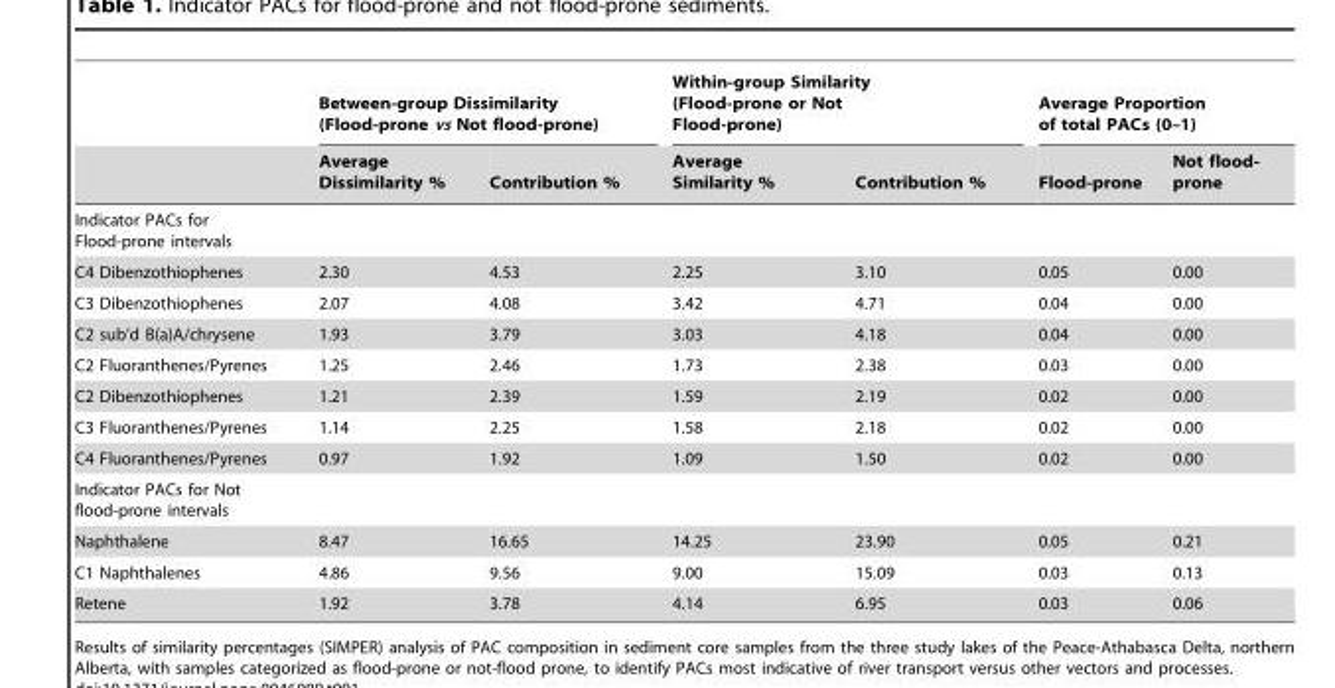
<table><thead><tr><td rowspan="2"></td><td colspan="2">Between-group Dissimilarity (Flood-prone vs Not flood-prone)</td><td colspan="2">Within-group Similarity (Flood-prone or Not Flood-prone)</td><td colspan="2">Average Proportion of total PACs (0–1)</td></tr><tr><td>Average Dissimilarity %</td><td>Contribution %</td><td>Average Similarity %</td><td>Contribution %</td><td>Flood-prone</td><td>Not flood- prone</td></tr></thead><tbody><tr><td colspan="7">Indicator PACs for Flood-prone intervals</td></tr><tr><td>C4 Dibenzothiophenes</td><td>2.30</td><td>4.53</td><td>2.25</td><td>3.10</td><td>0.05</td><td>0.00</td></tr><tr><td>C3 Dibenzothiophenes</td><td>2.07</td><td>4.08</td><td>3.42</td><td>4.71</td><td>0.04</td><td>0.00</td></tr><tr><td>C2 sub’d B(a)A/chrysene</td><td>1.93</td><td>3.79</td><td>3.03</td><td>4.18</td><td>0.04</td><td>0.00</td></tr><tr><td>C2 Fluoranthenes/Pyrenes</td><td>1.25</td><td>2.46</td><td>1.73</td><td>2.38</td><td>0.03</td><td>0.00</td></tr><tr><td>C2 Dibenzothiophenes</td><td>1.21</td><td>2.39</td><td>1.59</td><td>2.19</td><td>0.02</td><td>0.00</td></tr><tr><td>C3 Fluoranthenes/Pyrenes</td><td>1.14</td><td>2.25</td><td>1.58</td><td>2.18</td><td>0.02</td><td>0.00</td></tr><tr><td>C4 Fluoranthenes/Pyrenes</td><td>0.97</td><td>1.92</td><td>1.09</td><td>1.50</td><td>0.02</td><td>0.00</td></tr><tr><td colspan="7">Indicator PACs for Not flood-prone intervals</td></tr><tr><td>Naphthalene</td><td>8.47</td><td>16.65</td><td>14.25</td><td>23.90</td><td>0.05</td><td>0.21</td></tr><tr><td>C1 Naphthalenes</td><td>4.86</td><td>9.56</td><td>9.00</td><td>15.09</td><td>0.03</td><td>0.13</td></tr><tr><td>Retene</td><td>1.92</td><td>3.78</td><td>4.14</td><td>6.95</td><td>0.03</td><td>0.06</td></tr></tbody></table>